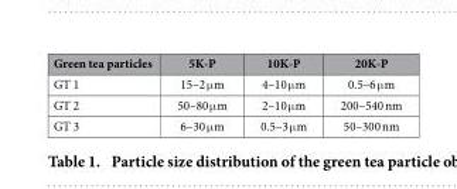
<table><thead><tr><td>Green tea particles</td><td>5K-P</td><td>10K-P</td><td>20K-P</td></tr></thead><tbody><tr><td>GT 1</td><td>15–2 μ m</td><td>4–10 μ m</td><td>0.5–6 μ m</td></tr><tr><td>GT 2</td><td>50–80 μ m</td><td>2–10 μ m</td><td>200–540 nm</td></tr><tr><td>GT 3</td><td>6–30 μ m</td><td>0.5–3 μ m</td><td>50–300 nm</td></tr></tbody></table>